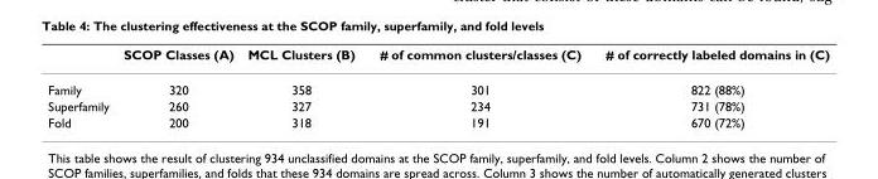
<table><thead><tr><td></td><td>SCOP Classes (A)</td><td>MCL Clusters (B)</td><td># of common clusters/classes (C)</td><td># of correctly labeled domains in (C)</td></tr></thead><tbody><tr><td>Family</td><td>320</td><td>358</td><td>301</td><td>822 (88%)</td></tr><tr><td>Superfamily</td><td>260</td><td>327</td><td>234</td><td>731 (78%)</td></tr><tr><td>Fold</td><td>200</td><td>318</td><td>191</td><td>670 (72%)</td></tr></tbody></table>